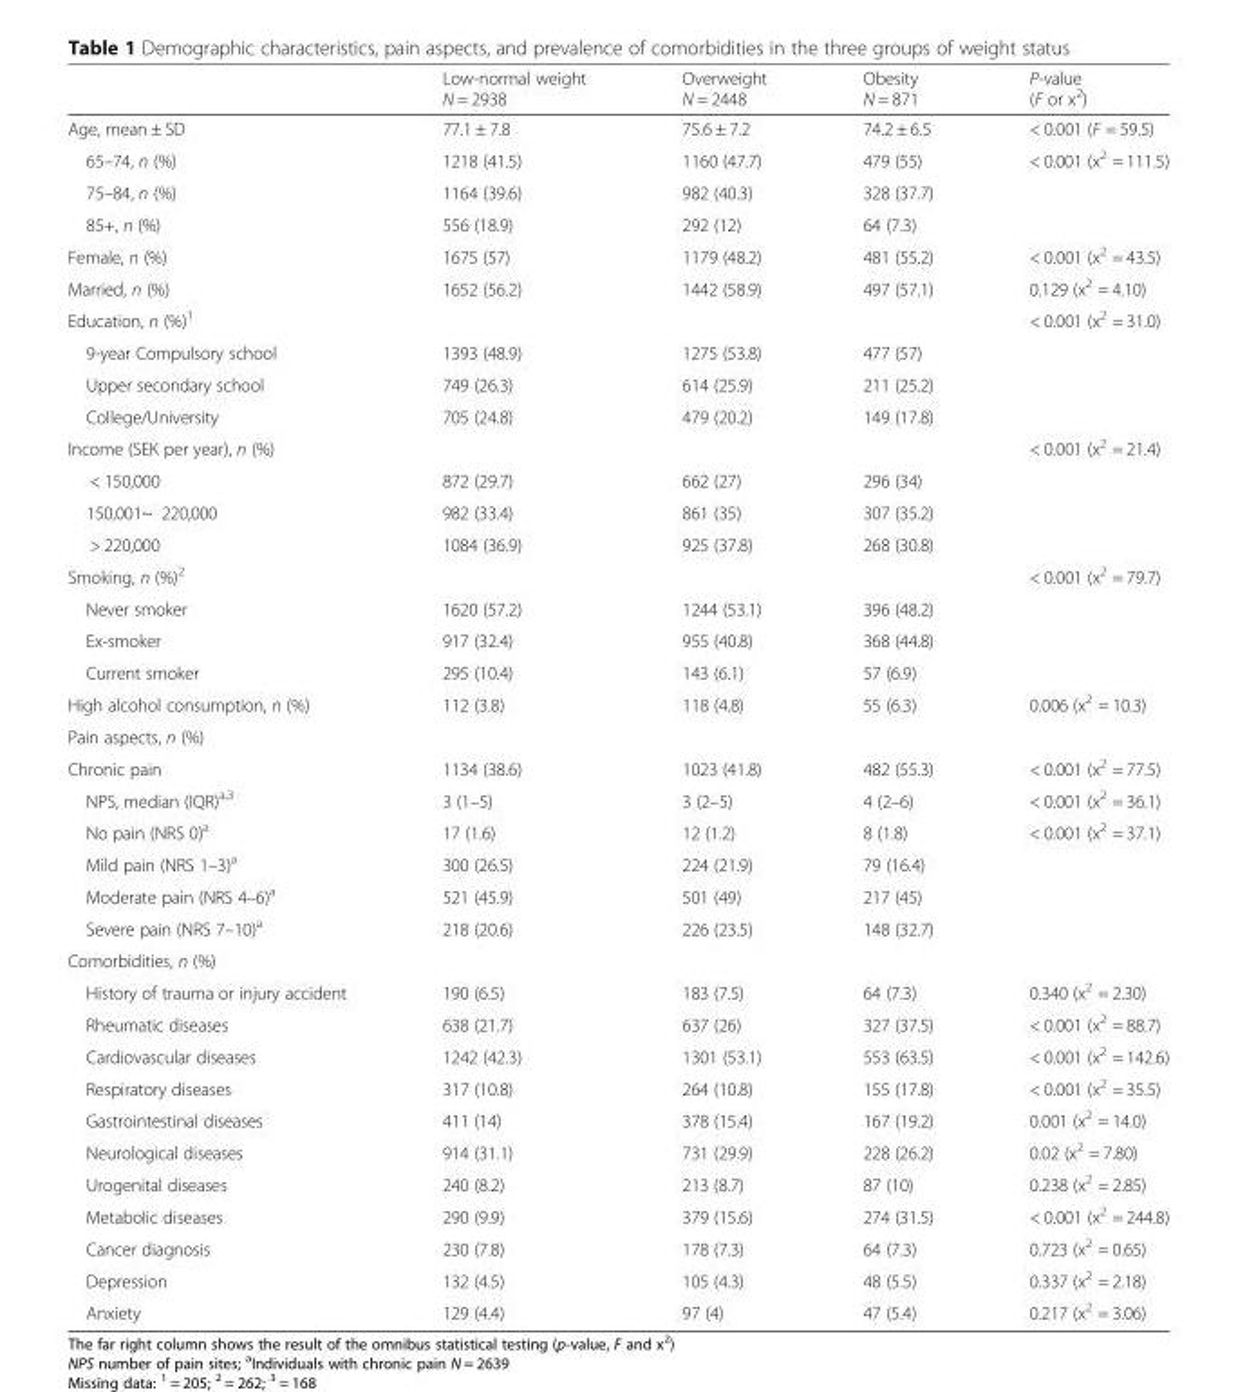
<table><thead><tr><td></td><td>Low-normal weight N = 2938</td><td>Overweight N = 2448</td><td>Obesity N = 871</td><td>P-value (F or x<sup>2</sup>)</td></tr></thead><tbody><tr><td>Age, mean ± SD</td><td>77.1 ± 7.8</td><td>75.6 ± 7.2</td><td>74.2 ± 6.5</td><td>&lt; 0.001 (F = 59.5)</td></tr><tr><td>65–74, n (%)</td><td>1218 (41.5)</td><td>1160 (47.7)</td><td>479 (55)</td><td>&lt; 0.001 (x<sup>2</sup> = 111.5)</td></tr><tr><td>75–84, n (%)</td><td>1164 (39.6)</td><td>982 (40.3)</td><td>328 (37.7)</td><td></td></tr><tr><td>85+, n (%)</td><td>556 (18.9)</td><td>292 (12)</td><td>64 (7.3)</td><td></td></tr><tr><td>Female, n (%)</td><td>1675 (57)</td><td>1179 (48.2)</td><td>481 (55.2)</td><td>&lt; 0.001 (x<sup>2</sup> = 43.5)</td></tr><tr><td>Married, n (%)</td><td>1652 (56.2)</td><td>1442 (58.9)</td><td>497 (57.1)</td><td>0.129 (x<sup>2</sup> = 4.10)</td></tr><tr><td>Education, n (%)<sup>1</sup></td><td></td><td></td><td></td><td>&lt; 0.001 (x<sup>2</sup> = 31.0)</td></tr><tr><td>9-year Compulsory school</td><td>1393 (48.9)</td><td>1275 (53.8)</td><td>477 (57)</td><td></td></tr><tr><td>Upper secondary school</td><td>749 (26.3)</td><td>614 (25.9)</td><td>211 (25.2)</td><td></td></tr><tr><td>College/University</td><td>705 (24.8)</td><td>479 (20.2)</td><td>149 (17.8)</td><td></td></tr><tr><td>Income (SEK per year), n (%)</td><td></td><td></td><td></td><td>&lt; 0.001 (x<sup>2</sup> = 21.4)</td></tr><tr><td>&lt; 150,000</td><td>872 (29.7)</td><td>662 (27)</td><td>296 (34)</td><td></td></tr><tr><td>150,001~ 220,000</td><td>982 (33.4)</td><td>861 (35)</td><td>307 (35.2)</td><td></td></tr><tr><td>&gt; 220,000</td><td>1084 (36.9)</td><td>925 (37.8)</td><td>268 (30.8)</td><td></td></tr><tr><td>Smoking, n (%)<sup>2</sup></td><td></td><td></td><td></td><td>&lt; 0.001 (x<sup>2</sup> = 79.7)</td></tr><tr><td>Never smoker</td><td>1620 (57.2)</td><td>1244 (53.1)</td><td>396 (48.2)</td><td></td></tr><tr><td>Ex-smoker</td><td>917 (32.4)</td><td>955 (40.8)</td><td>368 (44.8)</td><td></td></tr><tr><td>Current smoker</td><td>295 (10.4)</td><td>143 (6.1)</td><td>57 (6.9)</td><td></td></tr><tr><td>High alcohol consumption, n (%)</td><td>112 (3.8)</td><td>118 (4.8)</td><td>55 (6.3)</td><td>0.006 (x<sup>2</sup> = 10.3)</td></tr><tr><td colspan="5">Pain aspects, n (%)</td></tr><tr><td>Chronic pain</td><td>1134 (38.6)</td><td>1023 (41.8)</td><td>482 (55.3)</td><td>&lt; 0.001 (x<sup>2</sup> = 77.5)</td></tr><tr><td>NPS, median (IQR)<sup>a,3</sup></td><td>3 (1–5)</td><td>3 (2–5)</td><td>4 (2–6)</td><td>&lt; 0.001 (x<sup>2</sup> = 36.1)</td></tr><tr><td>No pain (NRS 0)<sup>a</sup></td><td>17 (1.6)</td><td>12 (1.2)</td><td>8 (1.8)</td><td>&lt; 0.001 (x<sup>2</sup> = 37.1)</td></tr><tr><td>Mild pain (NRS 1–3)<sup>a</sup></td><td>300 (26.5)</td><td>224 (21.9)</td><td>79 (16.4)</td><td></td></tr><tr><td>Moderate pain (NRS 4–6)<sup>a</sup></td><td>521 (45.9)</td><td>501 (49)</td><td>217 (45)</td><td></td></tr><tr><td>Severe pain (NRS 7–10)<sup>a</sup></td><td>218 (20.6)</td><td>226 (23.5)</td><td>148 (32.7)</td><td></td></tr><tr><td colspan="5">Comorbidities, n (%)</td></tr><tr><td>History of trauma or injury accident</td><td>190 (6.5)</td><td>183 (7.5)</td><td>64 (7.3)</td><td>0.340 (x<sup>2</sup> = 2.30)</td></tr><tr><td>Rheumatic diseases</td><td>638 (21.7)</td><td>637 (26)</td><td>327 (37.5)</td><td>&lt; 0.001 (x<sup>2</sup> = 88.7)</td></tr><tr><td>Cardiovascular diseases</td><td>1242 (42.3)</td><td>1301 (53.1)</td><td>553 (63.5)</td><td>&lt; 0.001 (x<sup>2</sup> = 142.6)</td></tr><tr><td>Respiratory diseases</td><td>317 (10.8)</td><td>264 (10.8)</td><td>155 (17.8)</td><td>&lt; 0.001 (x<sup>2</sup> = 35.5)</td></tr><tr><td>Gastrointestinal diseases</td><td>411 (14)</td><td>378 (15.4)</td><td>167 (19.2)</td><td>0.001 (x<sup>2</sup> = 14.0)</td></tr><tr><td>Neurological diseases</td><td>914 (31.1)</td><td>731 (29.9)</td><td>228 (26.2)</td><td>0.02 (x<sup>2</sup> = 7.80)</td></tr><tr><td>Urogenital diseases</td><td>240 (8.2)</td><td>213 (8.7)</td><td>87 (10)</td><td>0.238 (x<sup>2</sup> = 2.85)</td></tr><tr><td>Metabolic diseases</td><td>290 (9.9)</td><td>379 (15.6)</td><td>274 (31.5)</td><td>&lt; 0.001 (x<sup>2</sup> = 244.8)</td></tr><tr><td>Cancer diagnosis</td><td>230 (7.8)</td><td>178 (7.3)</td><td>64 (7.3)</td><td>0.723 (x<sup>2</sup> = 0.65)</td></tr><tr><td>Depression</td><td>132 (4.5)</td><td>105 (4.3)</td><td>48 (5.5)</td><td>0.337 (x<sup>2</sup> = 2.18)</td></tr><tr><td>Anxiety</td><td>129 (4.4)</td><td>97 (4)</td><td>47 (5.4)</td><td>0.217 (x<sup>2</sup> = 3.06)</td></tr></tbody></table>